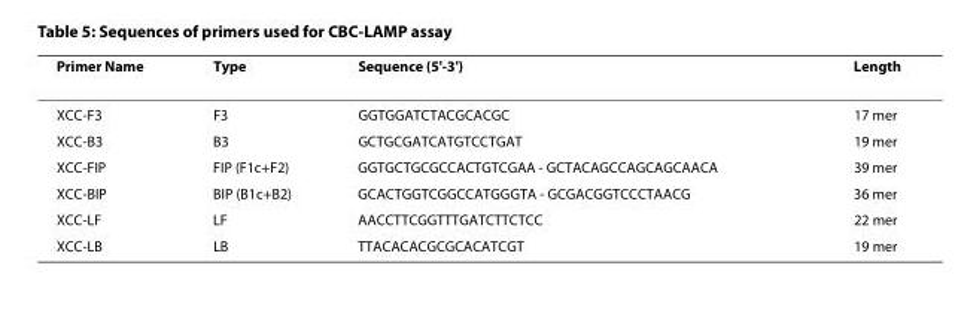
<table><thead><tr><td>Primer Name</td><td>Type</td><td>Sequence (5&#x27;-3&#x27;)</td><td>Length</td></tr></thead><tbody><tr><td>XCC-F3</td><td>F3</td><td>GGTGGATCTACGCACGC</td><td>17 mer</td></tr><tr><td>XCC-B3</td><td>B3</td><td>GCTGCGATCATGTCCTGAT</td><td>19 mer</td></tr><tr><td>XCC-FIP</td><td>FIP (F1c+F2)</td><td>GGTGCTGCGCCACTGTCGAA - GCTACAGCCAGCAGCAACA</td><td>39 mer</td></tr><tr><td>XCC-BIP</td><td>BIP (B1c+B2)</td><td>GCACTGGTCGGCCATGGGTA - GCGACGGTCCCTAACG</td><td>36 mer</td></tr><tr><td>XCC-LF</td><td>LF</td><td>AACCTTCGGTTTGATCTTCTCC</td><td>22 mer</td></tr><tr><td>XCC-LB</td><td>LB</td><td>TTACACACGCGCACATCGT</td><td>19 mer</td></tr></tbody></table>